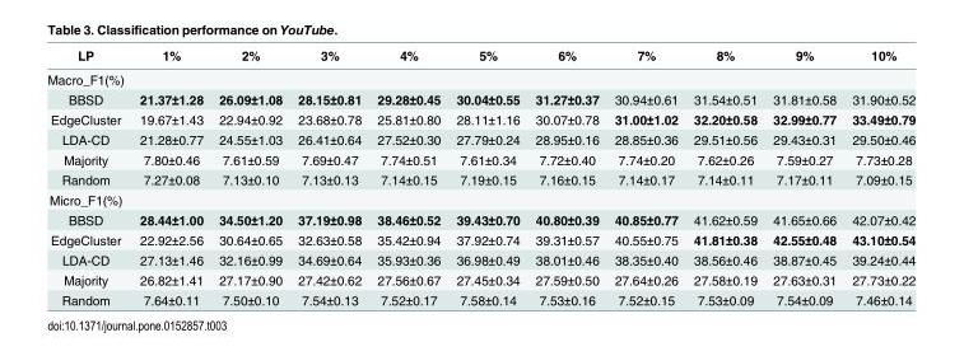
<table><thead><tr><td>LP</td><td>1%</td><td>2%</td><td>3%</td><td>4%</td><td>5%</td><td>6%</td><td>7%</td><td>8%</td><td>9%</td><td>10%</td></tr></thead><tbody><tr><td colspan="11">Macro_F1(%)</td></tr><tr><td>BBSD</td><td>21.37±1.28</td><td>26.09±1.08</td><td>28.15±0.81</td><td>29.28±0.45</td><td>30.04±0.55</td><td>31.27±0.37</td><td>30.94±0.61</td><td>31.54±0.51</td><td>31.81±0.58</td><td>31.90±0.52</td></tr><tr><td>EdgeCluster</td><td>19.67±1.43</td><td>22.94±0.92</td><td>23.68±0.78</td><td>25.81±0.80</td><td>28.11±1.16</td><td>30.07±0.78</td><td>31.00±1.02</td><td>32.20±0.58</td><td>32.99±0.77</td><td>33.49±0.79</td></tr><tr><td>LDA-CD</td><td>21.28±0.77</td><td>24.55±1.03</td><td>26.41±0.64</td><td>27.52±0.30</td><td>27.79±0.24</td><td>28.95±0.16</td><td>28.85±0.36</td><td>29.51±0.56</td><td>29.43±0.31</td><td>29.50±0.46</td></tr><tr><td>Majority</td><td>7.80±0.46</td><td>7.61±0.59</td><td>7.69±0.47</td><td>7.74±0.51</td><td>7.61±0.34</td><td>7.72±0.40</td><td>7.74±0.20</td><td>7.62±0.26</td><td>7.59±0.27</td><td>7.73±0.28</td></tr><tr><td>Random</td><td>7.27±0.08</td><td>7.13±0.10</td><td>7.13±0.13</td><td>7.14±0.15</td><td>7.19±0.15</td><td>7.16±0.15</td><td>7.14±0.17</td><td>7.14±0.11</td><td>7.17±0.11</td><td>7.09±0.15</td></tr><tr><td colspan="11">Micro_F1(%)</td></tr><tr><td>BBSD</td><td>28.44±1.00</td><td>34.50±1.20</td><td>37.19±0.98</td><td>38.46±0.52</td><td>39.43±0.70</td><td>40.80±0.39</td><td>40.85±0.77</td><td>41.62±0.59</td><td>41.65±0.66</td><td>42.07±0.42</td></tr><tr><td>EdgeCluster</td><td>22.92±2.56</td><td>30.64±0.65</td><td>32.63±0.58</td><td>35.42±0.94</td><td>37.92±0.74</td><td>39.31±0.57</td><td>40.55±0.75</td><td>41.81±0.38</td><td>42.55±0.48</td><td>43.10±0.54</td></tr><tr><td>LDA-CD</td><td>27.13±1.46</td><td>32.16±0.99</td><td>34.69±0.64</td><td>35.93±0.36</td><td>36.98±0.49</td><td>38.01±0.46</td><td>38.35±0.40</td><td>38.56±0.46</td><td>38.87±0.45</td><td>39.24±0.44</td></tr><tr><td>Majority</td><td>26.82±1.41</td><td>27.17±0.90</td><td>27.42±0.62</td><td>27.56±0.67</td><td>27.45±0.34</td><td>27.59±0.50</td><td>27.64±0.26</td><td>27.58±0.19</td><td>27.63±0.31</td><td>27.73±0.22</td></tr><tr><td>Random</td><td>7.64±0.11</td><td>7.50±0.10</td><td>7.54±0.13</td><td>7.52±0.17</td><td>7.58±0.14</td><td>7.53±0.16</td><td>7.52±0.15</td><td>7.53±0.09</td><td>7.54±0.09</td><td>7.46±0.14</td></tr></tbody></table>